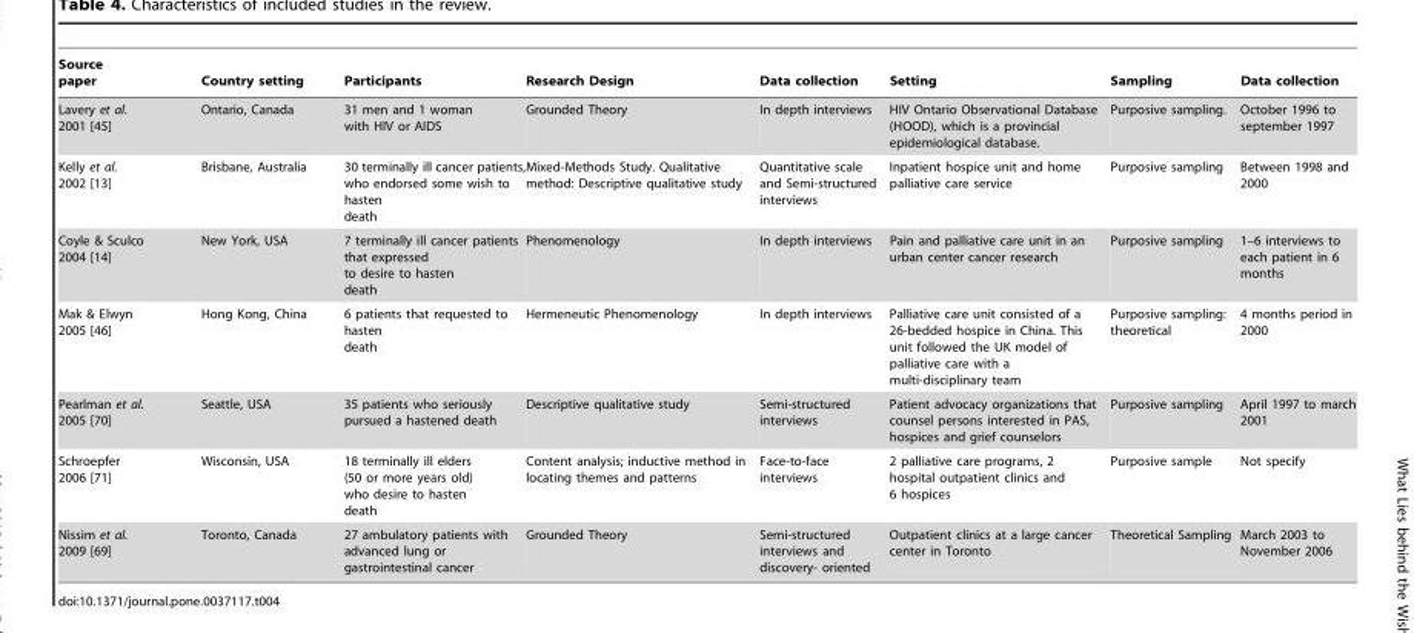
<table><thead><tr><td>Source paper</td><td>Country setting</td><td>Participants</td><td>Research Design</td><td>Data collection</td><td>Setting</td><td>Sampling</td><td>Data collection</td></tr></thead><tbody><tr><td>Lavery et al. 2001 [45]</td><td>Ontario, Canada</td><td>31 men and 1 woman with HIV or AIDS</td><td>Grounded Theory</td><td>In depth interviews</td><td>HIV Ontario Observational Database (HOOD), which is a provincial epidemiological database.</td><td>Purposive sampling.</td><td>October 1996 to september 1997</td></tr><tr><td>Kelly et al. 2002 [13]</td><td>Brisbane, Australia</td><td>30 terminally ill cancer patients, who endorsed some wish to hasten death</td><td>Mixed-Methods Study. Qualitative method: Descriptive qualitative study</td><td>Quantitative scale and Semi-structured interviews</td><td>Inpatient hospice unit and home palliative care service</td><td>Purposive sampling</td><td>Between 1998 and 2000</td></tr><tr><td>Coyle &amp; Sculco 2004 [14]</td><td>New York, USA</td><td>7 terminally ill cancer patients that expressed to desire to hasten death</td><td>Phenomenology</td><td>In depth interviews</td><td>Pain and palliative care unit in an urban center cancer research</td><td>Purposive sampling</td><td>1–6 interviews to each patient in 6 months</td></tr><tr><td>Mak &amp; Elwyn 2005 [46]</td><td>Hong Kong, China</td><td>6 patients that requested to hasten death</td><td>Hermeneutic Phenomenology</td><td>In depth interviews</td><td>Palliative care unit consisted of a 26-bedded hospice in China. This unit followed the UK model of palliative care with a multi-disciplinary team</td><td>Purposive sampling: theoretical</td><td>4 months period in 2000</td></tr><tr><td>Pearlman et al. 2005 [70]</td><td>Seattle, USA</td><td>35 patients who seriously pursued a hastened death</td><td>Descriptive qualitative study</td><td>Semi-structured interviews</td><td>Patient advocacy organizations that counsel persons interested in PAS, hospices and grief counselors</td><td>Purposive sampling</td><td>April 1997 to march 2001</td></tr><tr><td>Schroepfer 2006 [71]</td><td>Wisconsin, USA</td><td>18 terminally ill elders (50 or more years old) who desire to hasten death</td><td>Content analysis; inductive method in locating themes and patterns</td><td>Face-to-face interviews</td><td>2 palliative care programs, 2 hospital outpatient clinics and 6 hospices</td><td>Purposive sample</td><td>Not specify</td></tr><tr><td>Nissim et al. 2009 [69]</td><td>Toronto, Canada</td><td>27 ambulatory patients with advanced lung or gastrointestinal cancer</td><td>Grounded Theory</td><td>Semi-structured interviews and discovery- oriented</td><td>Outpatient clinics at a large cancer center in Toronto</td><td>Theoretical Sampling</td><td>March 2003 to November 2006</td></tr></tbody></table>